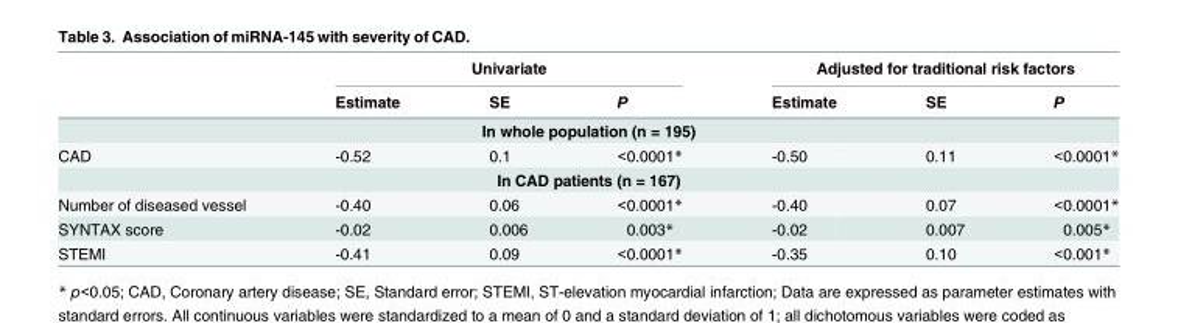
<table><thead><tr><td rowspan="2"></td><td colspan="3">Univariate</td><td colspan="3">Adjusted for traditional risk factors</td></tr><tr><td>Estimate</td><td>SE</td><td>P</td><td>Estimate</td><td>SE</td><td>P</td></tr></thead><tbody><tr><td colspan="7">In whole population (n = 195)</td></tr><tr><td>CAD</td><td>-0.52</td><td>0.1</td><td>&lt;0.0001*</td><td>-0.50</td><td>0.11</td><td>&lt;0.0001*</td></tr><tr><td colspan="7">In CAD patients (n = 167)</td></tr><tr><td>Number of diseased vessel</td><td>-0.40</td><td>0.06</td><td>&lt;0.0001*</td><td>-0.40</td><td>0.07</td><td>&lt;0.0001*</td></tr><tr><td>SYNTAX score</td><td>-0.02</td><td>0.006</td><td>0.003*</td><td>-0.02</td><td>0.007</td><td>0.005*</td></tr><tr><td>STEMI</td><td>-0.41</td><td>0.09</td><td>&lt;0.0001*</td><td>-0.35</td><td>0.10</td><td>&lt;0.001*</td></tr></tbody></table>